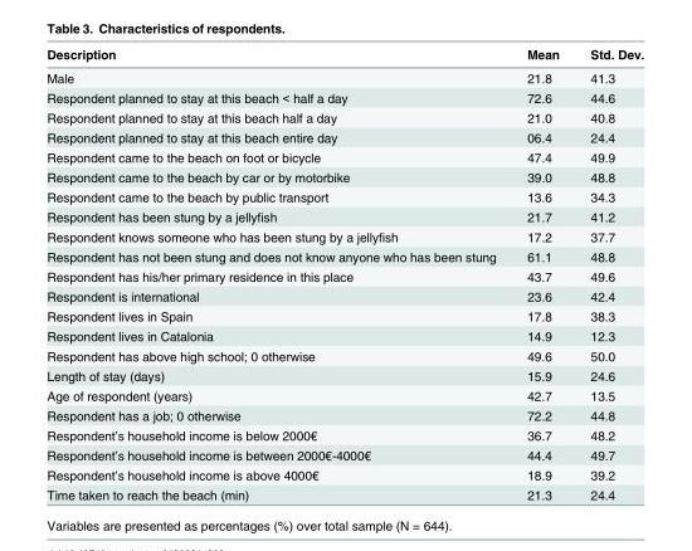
<table><thead><tr><td>Description</td><td>Mean</td><td>Std. Dev.</td></tr></thead><tbody><tr><td>Male</td><td>21.8</td><td>41.3</td></tr><tr><td>Respondent planned to stay at this beach &lt; half a day</td><td>72.6</td><td>44.6</td></tr><tr><td>Respondent planned to stay at this beach half a day</td><td>21.0</td><td>40.8</td></tr><tr><td>Respondent planned to stay at this beach entire day</td><td>06.4</td><td>24.4</td></tr><tr><td>Respondent came to the beach on foot or bicycle</td><td>47.4</td><td>49.9</td></tr><tr><td>Respondent came to the beach by car or by motorbike</td><td>39.0</td><td>48.8</td></tr><tr><td>Respondent came to the beach by public transport</td><td>13.6</td><td>34.3</td></tr><tr><td>Respondent has been stung by a jellyfish</td><td>21.7</td><td>41.2</td></tr><tr><td>Respondent knows someone who has been stung by a jellyfish</td><td>17.2</td><td>37.7</td></tr><tr><td>Respondent has not been stung and does not know anyone who has been stung</td><td>61.1</td><td>48.8</td></tr><tr><td>Respondent has his/her primary residence in this place</td><td>43.7</td><td>49.6</td></tr><tr><td>Respondent is international</td><td>23.6</td><td>42.4</td></tr><tr><td>Respondent lives in Spain</td><td>17.8</td><td>38.3</td></tr><tr><td>Respondent lives in Catalonia</td><td>14.9</td><td>12.3</td></tr><tr><td>Respondent has above high school; 0 otherwise</td><td>49.6</td><td>50.0</td></tr><tr><td>Length of stay (days)</td><td>15.9</td><td>24.6</td></tr><tr><td>Age of respondent (years)</td><td>42.7</td><td>13.5</td></tr><tr><td>Respondent has a job; 0 otherwise</td><td>72.2</td><td>44.8</td></tr><tr><td>Respondent’s household income is below 2000€</td><td>36.7</td><td>48.2</td></tr><tr><td>Respondent’s household income is between 2000€-4000€</td><td>44.4</td><td>49.7</td></tr><tr><td>Respondent’s household income is above 4000€</td><td>18.9</td><td>39.2</td></tr><tr><td>Time taken to reach the beach (min)</td><td>21.3</td><td>24.4</td></tr></tbody></table>